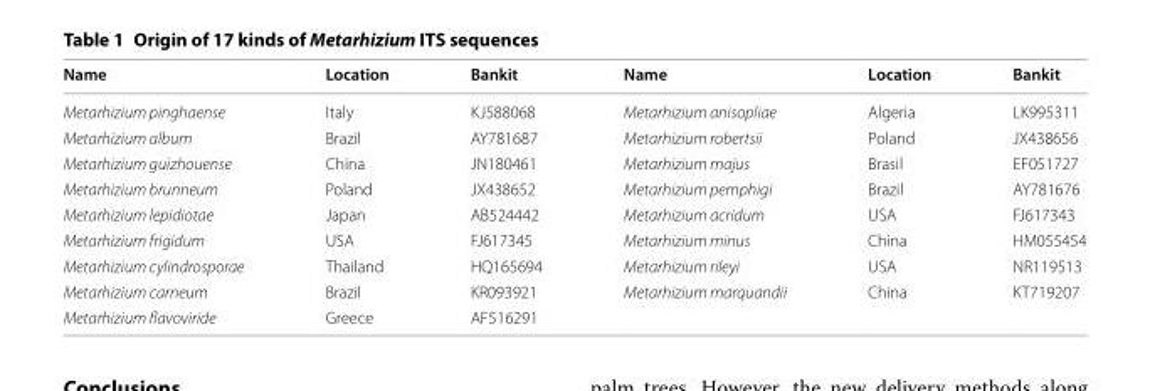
<table><thead><tr><td>Name</td><td>Location</td><td>Bankit</td><td>Name</td><td>Location</td><td>Bankit</td></tr></thead><tbody><tr><td>Metarhizium pinghaense</td><td>Italy</td><td>KJ588068</td><td>Metarhizium anisopliae</td><td>Algeria</td><td>LK995311</td></tr><tr><td>Metarhizium album</td><td>Brazil</td><td>AY781687</td><td>Metarhizium robertsii</td><td>Poland</td><td>JX438656</td></tr><tr><td>Metarhizium guizhouense</td><td>China</td><td>JN180461</td><td>Metarhizium majus</td><td>Brasil</td><td>EF051727</td></tr><tr><td>Metarhizium brunneum</td><td>Poland</td><td>JX438652</td><td>Metarhizium pemphigi</td><td>Brazil</td><td>AY781676</td></tr><tr><td>Metarhizium lepidiotae</td><td>Japan</td><td>AB524442</td><td>Metarhizium acridum</td><td>USA</td><td>FJ617343</td></tr><tr><td>Metarhizium frigidum</td><td>USA</td><td>FJ617345</td><td>Metarhizium minus</td><td>China</td><td>HM055454</td></tr><tr><td>Metarhizium cylindrosporae</td><td>Thailand</td><td>HQ165694</td><td>Metarhizium rileyi</td><td>USA</td><td>NR119513</td></tr><tr><td>Metarhizium carneum</td><td>Brazil</td><td>KR093921</td><td>Metarhizium marquandii</td><td>China</td><td>KT719207</td></tr><tr><td>Metarhizium flavoviride</td><td>Greece</td><td>AF516291</td><td></td><td></td><td></td></tr></tbody></table>